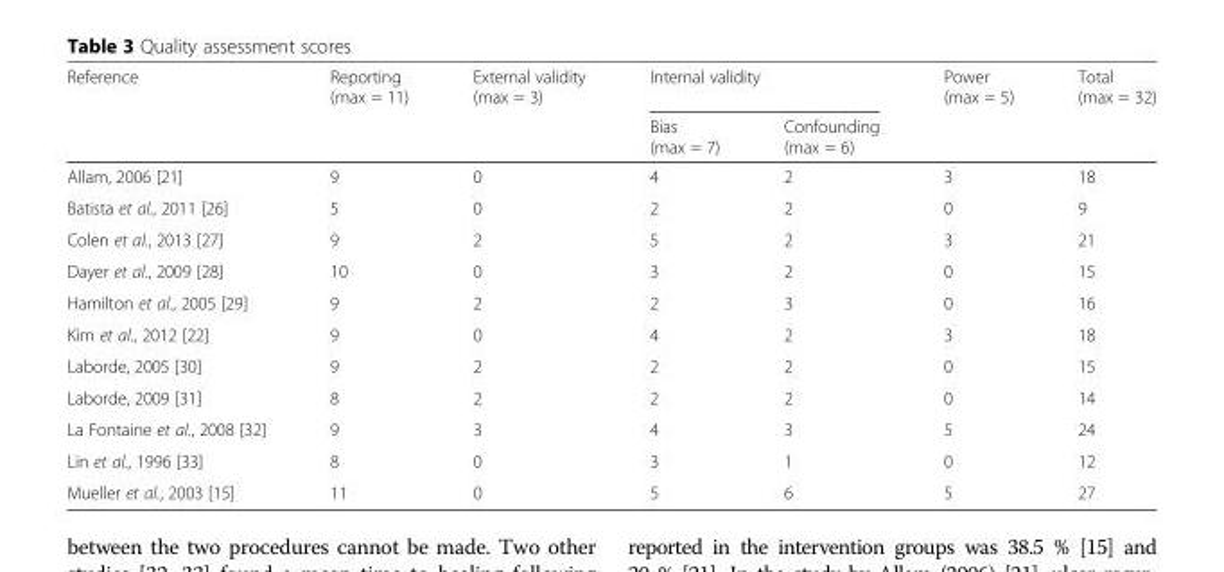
<table><thead><tr><td rowspan="2">Reference</td><td rowspan="2">Reporting (max = 11)</td><td rowspan="2">External validity (max = 3)</td><td colspan="2">Internal validity</td><td rowspan="2">Power (max = 5)</td><td rowspan="2">Total (max = 32)</td></tr><tr><td>Bias (max = 7)</td><td>Confounding (max = 6)</td></tr></thead><tbody><tr><td>Allam, 2006 [21]</td><td>9</td><td>0</td><td>4</td><td>2</td><td>3</td><td>18</td></tr><tr><td>Batista et al., 2011 [26]</td><td>5</td><td>0</td><td>2</td><td>2</td><td>0</td><td>9</td></tr><tr><td>Colen et al., 2013 [27]</td><td>9</td><td>2</td><td>5</td><td>2</td><td>3</td><td>21</td></tr><tr><td>Dayer et al., 2009 [28]</td><td>10</td><td>0</td><td>3</td><td>2</td><td>0</td><td>15</td></tr><tr><td>Hamilton et al., 2005 [29]</td><td>9</td><td>2</td><td>2</td><td>3</td><td>0</td><td>16</td></tr><tr><td>Kim et al., 2012 [22]</td><td>9</td><td>0</td><td>4</td><td>2</td><td>3</td><td>18</td></tr><tr><td>Laborde, 2005 [30]</td><td>9</td><td>2</td><td>2</td><td>2</td><td>0</td><td>15</td></tr><tr><td>Laborde, 2009 [31]</td><td>8</td><td>2</td><td>2</td><td>2</td><td>0</td><td>14</td></tr><tr><td>La Fontaine et al., 2008 [32]</td><td>9</td><td>3</td><td>4</td><td>3</td><td>5</td><td>24</td></tr><tr><td>Lin et al., 1996 [33]</td><td>8</td><td>0</td><td>3</td><td>1</td><td>0</td><td>12</td></tr><tr><td>Mueller et al., 2003 [15]</td><td>11</td><td>0</td><td>5</td><td>6</td><td>5</td><td>27</td></tr></tbody></table>